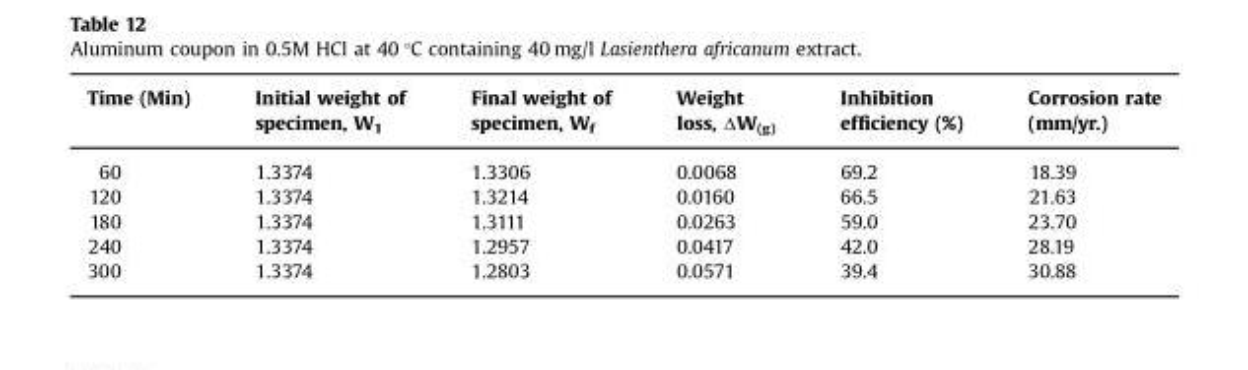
<table><thead><tr><td>Time (Min)</td><td>Initial weight of specimen, W<sub>1</sub></td><td>Final weight of specimen, W<sub>f</sub></td><td>Weight loss, ΔW(g)</td><td>Inhibition efficiency (%)</td><td>Corrosion rate (mm/yr.)</td></tr></thead><tbody><tr><td>60</td><td>1.3374</td><td>1.3306</td><td>0.0068</td><td>69.2</td><td>18.39</td></tr><tr><td>120</td><td>1.3374</td><td>1.3214</td><td>0.0160</td><td>66.5</td><td>21.63</td></tr><tr><td>180</td><td>1.3374</td><td>1.3111</td><td>0.0263</td><td>59.0</td><td>23.70</td></tr><tr><td>240</td><td>1.3374</td><td>1.2957</td><td>0.0417</td><td>42.0</td><td>28.19</td></tr><tr><td>300</td><td>1.3374</td><td>1.2803</td><td>0.0571</td><td>39.4</td><td>30.88</td></tr></tbody></table>